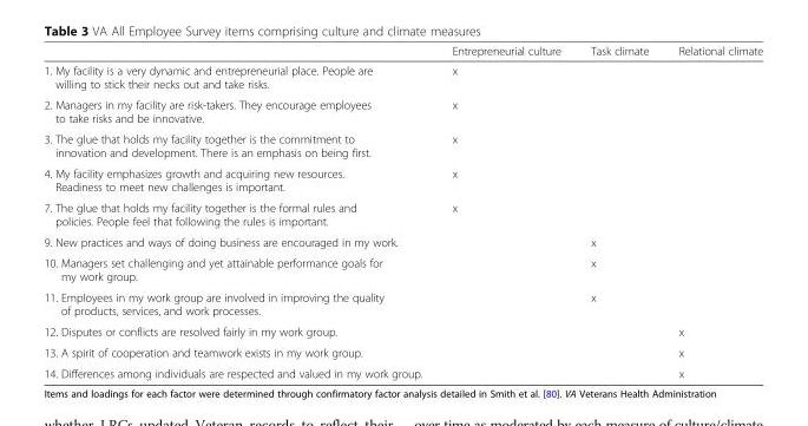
<table><thead><tr><td></td><td>Entrepreneurial culture</td><td>Task climate</td><td>Relational climate</td></tr></thead><tbody><tr><td>1. My facility is a very dynamic and entrepreneurial place. People are willing to stick their necks out and take risks.</td><td>x</td><td></td><td></td></tr><tr><td>2. Managers in my facility are risk-takers. They encourage employees to take risks and be innovative.</td><td>x</td><td></td><td></td></tr><tr><td>3. The glue that holds my facility together is the commitment to innovation and development. There is an emphasis on being first.</td><td>x</td><td></td><td></td></tr><tr><td>4. My facility emphasizes growth and acquiring new resources. Readiness to meet new challenges is important.</td><td>x</td><td></td><td></td></tr><tr><td>7. The glue that holds my facility together is the formal rules and policies. People feel that following the rules is important.</td><td>x</td><td></td><td></td></tr><tr><td>9. New practices and ways of doing business are encouraged in my work.</td><td></td><td>x</td><td></td></tr><tr><td>10. Managers set challenging and yet attainable performance goals for my work group.</td><td></td><td>x</td><td></td></tr><tr><td>11. Employees in my work group are involved in improving the quality of products, services, and work processes.</td><td></td><td>x</td><td></td></tr><tr><td>12. Disputes or conflicts are resolved fairly in my work group.</td><td></td><td></td><td>x</td></tr><tr><td>13. A spirit of cooperation and teamwork exists in my work group.</td><td></td><td></td><td>x</td></tr><tr><td>14. Differences among individuals are respected and valued in my work group.</td><td></td><td></td><td>x</td></tr></tbody></table>